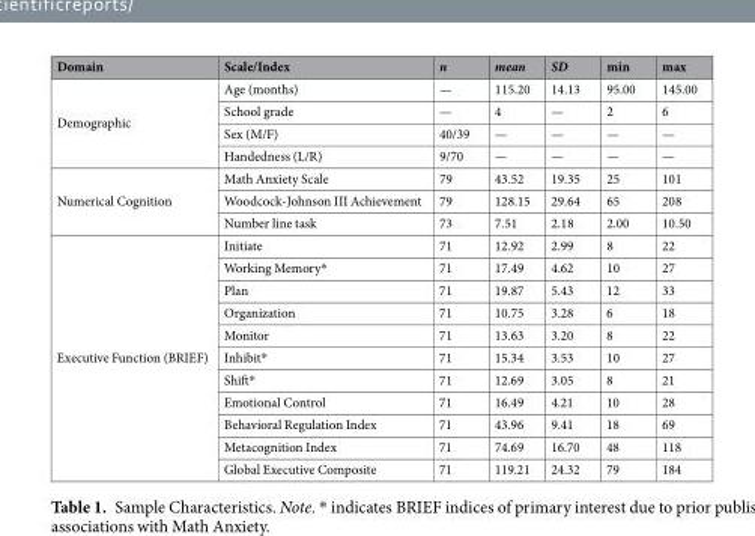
<table><thead><tr><td>Domain</td><td>Scale/Index</td><td>n</td><td>mean</td><td>SD</td><td>min</td><td>max</td></tr></thead><tbody><tr><td rowspan="4">Demographic</td><td>Age (months)</td><td>—</td><td>115.20</td><td>14.13</td><td>95.00</td><td>145.00</td></tr><tr><td>School grade</td><td>—</td><td>4</td><td>—</td><td>2</td><td>6</td></tr><tr><td>Sex (M/F)</td><td>40/39</td><td>—</td><td>—</td><td>—</td><td>—</td></tr><tr><td>Handedness (L/R)</td><td>9/70</td><td>—</td><td>—</td><td>—</td><td>—</td></tr><tr><td rowspan="3">Numerical Cognition</td><td>Math Anxiety Scale</td><td>79</td><td>43.52</td><td>19.35</td><td>25</td><td>101</td></tr><tr><td>Woodcock-Johnson III Achievement</td><td>79</td><td>128.15</td><td>29.64</td><td>65</td><td>208</td></tr><tr><td>Number line task</td><td>73</td><td>7.51</td><td>2.18</td><td>2.00</td><td>10.50</td></tr><tr><td rowspan="11">Executive Function (BRIEF)</td><td>Initiate</td><td>71</td><td>12.92</td><td>2.99</td><td>8</td><td>22</td></tr><tr><td>Working Memory*</td><td>71</td><td>17.49</td><td>4.62</td><td>10</td><td>27</td></tr><tr><td>Plan</td><td>71</td><td>19.87</td><td>5.43</td><td>12</td><td>33</td></tr><tr><td>Organization</td><td>71</td><td>10.75</td><td>3.28</td><td>6</td><td>18</td></tr><tr><td>Monitor</td><td>71</td><td>13.63</td><td>3.20</td><td>8</td><td>22</td></tr><tr><td>Inhibit*</td><td>71</td><td>15.34</td><td>3.53</td><td>10</td><td>27</td></tr><tr><td>Shift*</td><td>71</td><td>12.69</td><td>3.05</td><td>8</td><td>21</td></tr><tr><td>Emotional Control</td><td>71</td><td>16.49</td><td>4.21</td><td>10</td><td>28</td></tr><tr><td>Behavioral Regulation Index</td><td>71</td><td>43.96</td><td>9.41</td><td>18</td><td>69</td></tr><tr><td>Metacognition Index</td><td>71</td><td>74.69</td><td>16.70</td><td>48</td><td>118</td></tr><tr><td>Global Executive Composite</td><td>71</td><td>119.21</td><td>24.32</td><td>79</td><td>184</td></tr></tbody></table>